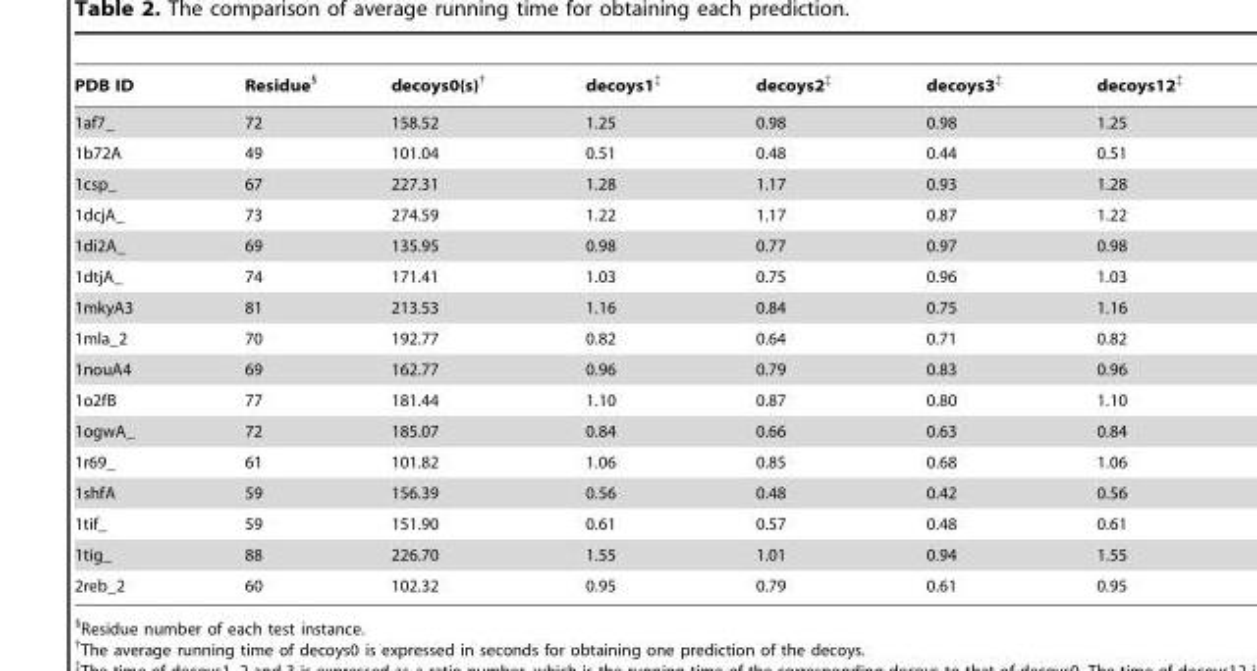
<table><thead><tr><td>PDB ID</td><td>Residue§</td><td>decoys0(s)†</td><td>decoys1‡</td><td>decoys2‡</td><td>decoys3‡</td><td>decoys12‡</td></tr></thead><tbody><tr><td>1af7_</td><td>72</td><td>158.52</td><td>1.25</td><td>0.98</td><td>0.98</td><td>1.25</td></tr><tr><td>1b72A</td><td>49</td><td>101.04</td><td>0.51</td><td>0.48</td><td>0.44</td><td>0.51</td></tr><tr><td>1csp_</td><td>67</td><td>227.31</td><td>1.28</td><td>1.17</td><td>0.93</td><td>1.28</td></tr><tr><td>1dcjA_</td><td>73</td><td>274.59</td><td>1.22</td><td>1.17</td><td>0.87</td><td>1.22</td></tr><tr><td>1di2A_</td><td>69</td><td>135.95</td><td>0.98</td><td>0.77</td><td>0.97</td><td>0.98</td></tr><tr><td>1dtjA_</td><td>74</td><td>171.41</td><td>1.03</td><td>0.75</td><td>0.96</td><td>1.03</td></tr><tr><td>1mkyA3</td><td>81</td><td>213.53</td><td>1.16</td><td>0.84</td><td>0.75</td><td>1.16</td></tr><tr><td>1mla_2</td><td>70</td><td>192.77</td><td>0.82</td><td>0.64</td><td>0.71</td><td>0.82</td></tr><tr><td>1nouA4</td><td>69</td><td>162.77</td><td>0.96</td><td>0.79</td><td>0.83</td><td>0.96</td></tr><tr><td>1o2fB</td><td>77</td><td>181.44</td><td>1.10</td><td>0.87</td><td>0.80</td><td>1.10</td></tr><tr><td>1ogwA_</td><td>72</td><td>185.07</td><td>0.84</td><td>0.66</td><td>0.63</td><td>0.84</td></tr><tr><td>1r69_</td><td>61</td><td>101.82</td><td>1.06</td><td>0.85</td><td>0.68</td><td>1.06</td></tr><tr><td>1shfA</td><td>59</td><td>156.39</td><td>0.56</td><td>0.48</td><td>0.42</td><td>0.56</td></tr><tr><td>1tif_</td><td>59</td><td>151.90</td><td>0.61</td><td>0.57</td><td>0.48</td><td>0.61</td></tr><tr><td>1tig_</td><td>88</td><td>226.70</td><td>1.55</td><td>1.01</td><td>0.94</td><td>1.55</td></tr><tr><td>2reb_2</td><td>60</td><td>102.32</td><td>0.95</td><td>0.79</td><td>0.61</td><td>0.95</td></tr></tbody></table>